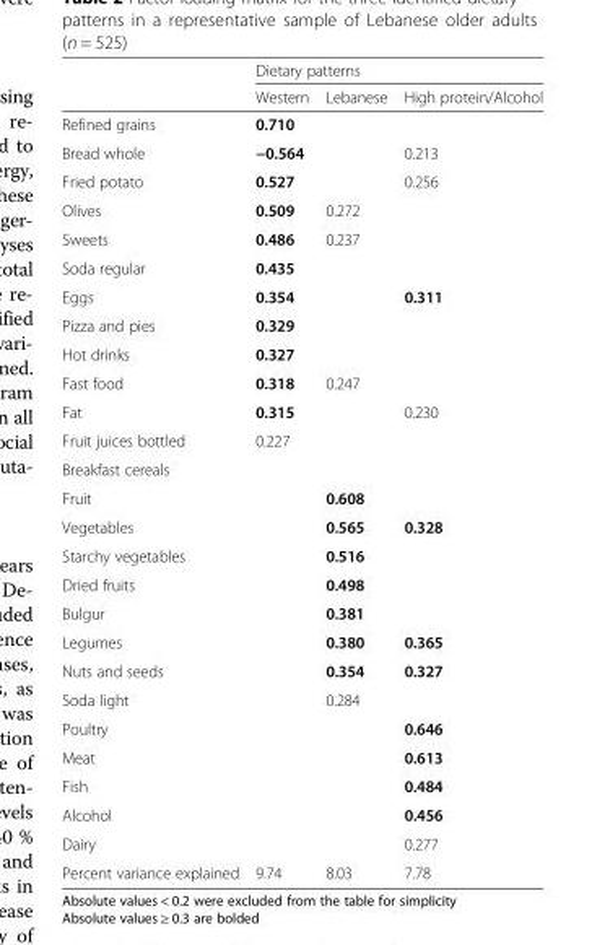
<table><thead><tr><td rowspan="2"></td><td colspan="3">Dietary patterns</td></tr><tr><td>Western</td><td>Lebanese</td><td>High protein/Alcohol</td></tr></thead><tbody><tr><td>Refined grains</td><td>0.710</td><td></td><td></td></tr><tr><td>Bread whole</td><td>−0.564</td><td></td><td>0.213</td></tr><tr><td>Fried potato</td><td>0.527</td><td></td><td>0.256</td></tr><tr><td>Olives</td><td>0.509</td><td>0.272</td><td></td></tr><tr><td>Sweets</td><td>0.486</td><td>0.237</td><td></td></tr><tr><td>Soda regular</td><td>0.435</td><td></td><td></td></tr><tr><td>Eggs</td><td>0.354</td><td></td><td>0.311</td></tr><tr><td>Pizza and pies</td><td>0.329</td><td></td><td></td></tr><tr><td>Hot drinks</td><td>0.327</td><td></td><td></td></tr><tr><td>Fast food</td><td>0.318</td><td>0.247</td><td></td></tr><tr><td>Fat</td><td>0.315</td><td></td><td>0.230</td></tr><tr><td>Fruit juices bottled</td><td>0.227</td><td></td><td></td></tr><tr><td colspan="4">Breakfast cereals</td></tr><tr><td>Fruit</td><td></td><td>0.608</td><td></td></tr><tr><td>Vegetables</td><td></td><td>0.565</td><td>0.328</td></tr><tr><td>Starchy vegetables</td><td></td><td>0.516</td><td></td></tr><tr><td>Dried fruits</td><td></td><td>0.498</td><td></td></tr><tr><td>Bulgur</td><td></td><td>0.381</td><td></td></tr><tr><td>Legumes</td><td></td><td>0.380</td><td>0.365</td></tr><tr><td>Nuts and seeds</td><td></td><td>0.354</td><td>0.327</td></tr><tr><td>Soda light</td><td></td><td>0.284</td><td></td></tr><tr><td>Poultry</td><td></td><td></td><td>0.646</td></tr><tr><td>Meat</td><td></td><td></td><td>0.613</td></tr><tr><td>Fish</td><td></td><td></td><td>0.484</td></tr><tr><td>Alcohol</td><td></td><td></td><td>0.456</td></tr><tr><td>Dairy</td><td></td><td></td><td>0.277</td></tr><tr><td>Percent variance explained</td><td>9.74</td><td>8.03</td><td>7.78</td></tr></tbody></table>